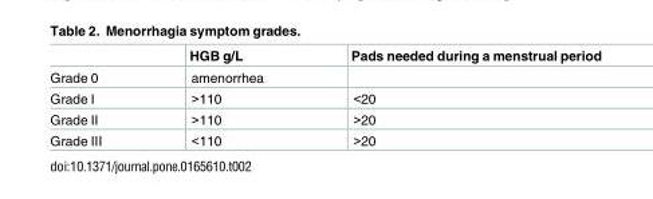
<table><thead><tr><td></td><td>HGB g/L</td><td>Pads needed during a menstrual period</td></tr></thead><tbody><tr><td>Grade 0</td><td>amenorrhea</td><td></td></tr><tr><td>Grade I</td><td>&gt;110</td><td>&lt;20</td></tr><tr><td>Grade II</td><td>&gt;110</td><td>&gt;20</td></tr><tr><td>Grade III</td><td>&lt;110</td><td>&gt;20</td></tr></tbody></table>